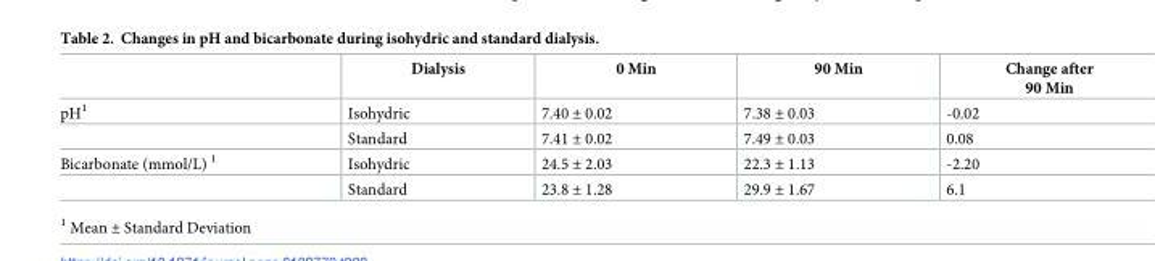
<table><thead><tr><td></td><td>Dialysis</td><td>0 Min</td><td>90 Min</td><td>Change after 90 Min</td></tr></thead><tbody><tr><td rowspan="2">pH<sup>1</sup></td><td>Isohydric</td><td>7.40 ± 0.02</td><td>7.38 ± 0.03</td><td>-0.02</td></tr><tr><td>Standard</td><td>7.41 ± 0.02</td><td>7.49 ± 0.03</td><td>0.08</td></tr><tr><td rowspan="2">Bicarbonate (mmol/L) <sup>1</sup></td><td>Isohydric</td><td>24.5 ± 2.03</td><td>22.3 ± 1.13</td><td>-2.20</td></tr><tr><td>Standard</td><td>23.8 ± 1.28</td><td>29.9 ± 1.67</td><td>6.1</td></tr></tbody></table>